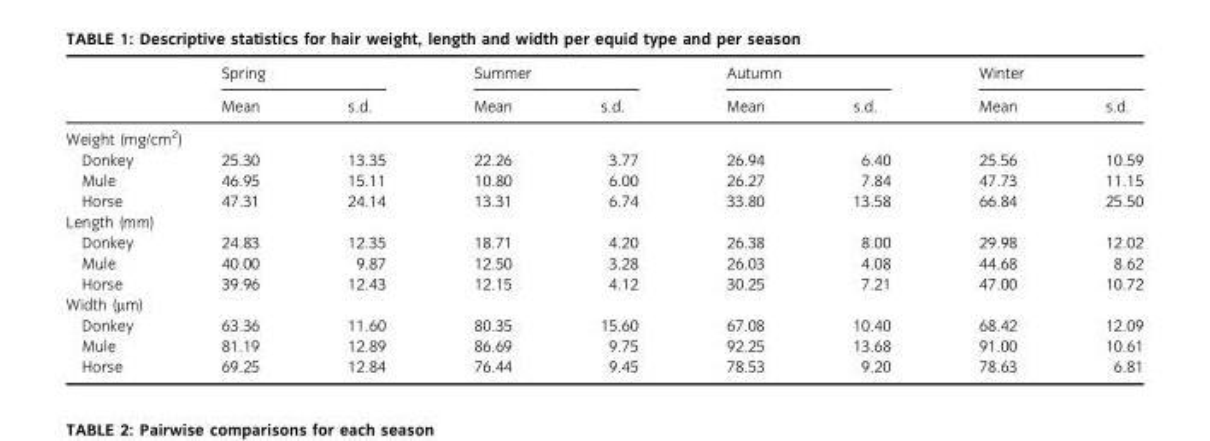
<table><thead><tr><td rowspan="2"></td><td colspan="2">Spring</td><td colspan="2">Summer</td><td colspan="2">Autumn</td><td colspan="2">Winter</td></tr><tr><td>Mean</td><td>s.d.</td><td>Mean</td><td>s.d.</td><td>Mean</td><td>s.d.</td><td>Mean</td><td>s.d.</td></tr></thead><tbody><tr><td colspan="9">Weight (mg/cm<sup>2</sup>)</td></tr><tr><td>Donkey</td><td>25.30</td><td>13.35</td><td>22.26</td><td>3.77</td><td>26.94</td><td>6.40</td><td>25.56</td><td>10.59</td></tr><tr><td>Mule</td><td>46.95</td><td>15.11</td><td>10.80</td><td>6.00</td><td>26.27</td><td>7.84</td><td>47.73</td><td>11.15</td></tr><tr><td>Horse</td><td>47.31</td><td>24.14</td><td>13.31</td><td>6.74</td><td>33.80</td><td>13.58</td><td>66.84</td><td>25.50</td></tr><tr><td colspan="9">Length (mm)</td></tr><tr><td>Donkey</td><td>24.83</td><td>12.35</td><td>18.71</td><td>4.20</td><td>26.38</td><td>8.00</td><td>29.98</td><td>12.02</td></tr><tr><td>Mule</td><td>40.00</td><td>9.87</td><td>12.50</td><td>3.28</td><td>26.03</td><td>4.08</td><td>44.68</td><td>8.62</td></tr><tr><td>Horse</td><td>39.96</td><td>12.43</td><td>12.15</td><td>4.12</td><td>30.25</td><td>7.21</td><td>47.00</td><td>10.72</td></tr><tr><td colspan="9">Width (μm)</td></tr><tr><td>Donkey</td><td>63.36</td><td>11.60</td><td>80.35</td><td>15.60</td><td>67.08</td><td>10.40</td><td>68.42</td><td>12.09</td></tr><tr><td>Mule</td><td>81.19</td><td>12.89</td><td>86.69</td><td>9.75</td><td>92.25</td><td>13.68</td><td>91.00</td><td>10.61</td></tr><tr><td>Horse</td><td>69.25</td><td>12.84</td><td>76.44</td><td>9.45</td><td>78.53</td><td>9.20</td><td>78.63</td><td>6.81</td></tr></tbody></table>